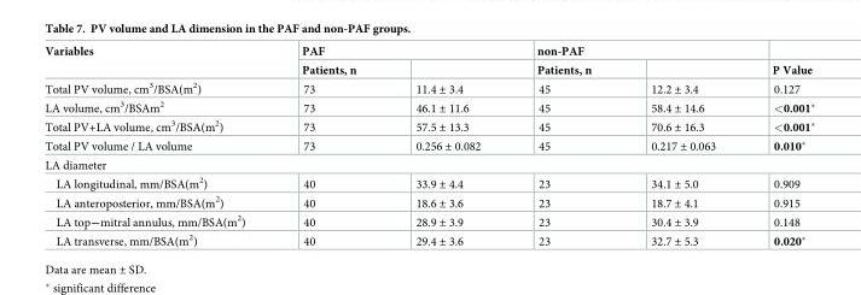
<table><thead><tr><td rowspan="2">Variables</td><td colspan="2">PAF</td><td colspan="2">non-PAF</td><td rowspan="2">P Value</td></tr><tr><td>Patients, n</td><td></td><td>Patients, n</td><td></td></tr></thead><tbody><tr><td>Total PV volume, cm<sup>3</sup>/BSA(m<sup>2</sup>)</td><td>73</td><td>11.4 ± 3.4</td><td>45</td><td>12.2 ± 3.4</td><td>0.127</td></tr><tr><td>LA volume, cm<sup>3</sup>/BSAm<sup>2</sup></td><td>73</td><td>46.1 ± 11.6</td><td>45</td><td>58.4 ± 14.6</td><td>&lt;0.001*</td></tr><tr><td>Total PV+LA volume, cm<sup>3</sup>/BSA(m<sup>2</sup>)</td><td>73</td><td>57.5 ± 13.3</td><td>45</td><td>70.6 ± 16.3</td><td>&lt;0.001*</td></tr><tr><td>Total PV volume / LA volume</td><td>73</td><td>0.256 ± 0.082</td><td>45</td><td>0.217 ± 0.063</td><td>0.010*</td></tr><tr><td colspan="6">LA diameter</td></tr><tr><td>LA longitudinal, mm/BSA(m<sup>2</sup>)</td><td>40</td><td>33.9 ± 4.4</td><td>23</td><td>34.1 ± 5.0</td><td>0.909</td></tr><tr><td>LA anteroposterior, mm/BSA(m<sup>2</sup>)</td><td>40</td><td>18.6 ± 3.6</td><td>23</td><td>18.7 ± 4.1</td><td>0.915</td></tr><tr><td>LA top―mitral annulus, mm/BSA(m<sup>2</sup>)</td><td>40</td><td>28.9 ± 3.9</td><td>23</td><td>30.4 ± 3.9</td><td>0.148</td></tr><tr><td>LA transverse, mm/BSA(m<sup>2</sup>)</td><td>40</td><td>29.4 ± 3.6</td><td>23</td><td>32.7 ± 5.3</td><td>0.020*</td></tr></tbody></table>